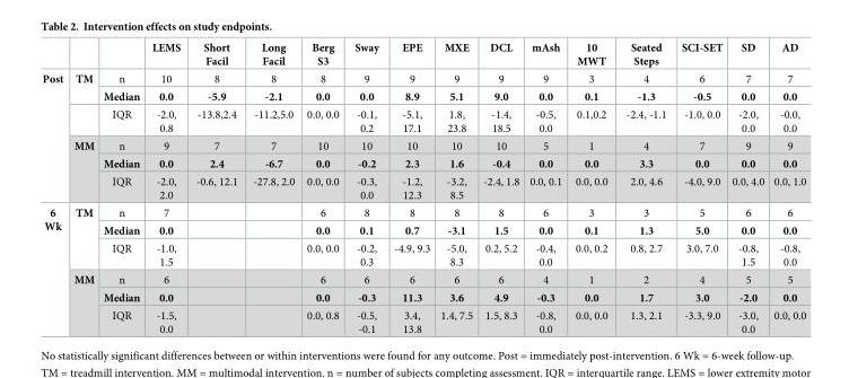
<table><thead><tr><td></td><td></td><td></td><td>LEMS</td><td>Short Facil</td><td>Long Facil</td><td>Berg S3</td><td>Sway</td><td>EPE</td><td>MXE</td><td>DCL</td><td>mAsh</td><td>10 MWT</td><td>Seated Steps</td><td>SCI-SET</td><td>SD</td><td>AD</td></tr></thead><tbody><tr><td rowspan="6">Post</td><td rowspan="2">TM</td><td>n</td><td>10</td><td>8</td><td>8</td><td>8</td><td>9</td><td>9</td><td>9</td><td>9</td><td>9</td><td>3</td><td>4</td><td>6</td><td>7</td><td>7</td></tr><tr><td>Median</td><td>0.0</td><td>-5.9</td><td>-2.1</td><td>0.0</td><td>0.0</td><td>8.9</td><td>5.1</td><td>9.0</td><td>0.0</td><td>0.1</td><td>-1.3</td><td>-0.5</td><td>0.0</td><td>0.0</td></tr><tr><td></td><td>IQR</td><td>-2.0, 0.8</td><td>-13.8,2.4</td><td>-11.2,5.0</td><td>0.0, 0.0</td><td>-0.1, 0.2</td><td>-5.1, 17.1</td><td>1.8, 23.8</td><td>-1.4, 18.5</td><td>-0.5, 0.0</td><td>0.1,0.2</td><td>-2.4, -1.1</td><td>-1.0, 0.0</td><td>-2.0, 0.0</td><td>-0.0, 0.0</td></tr><tr><td rowspan="3">MM</td><td>n</td><td>9</td><td>7</td><td>7</td><td>10</td><td>10</td><td>10</td><td>10</td><td>10</td><td>5</td><td>1</td><td>4</td><td>7</td><td>9</td><td>9</td></tr><tr><td>Median</td><td>0.0</td><td>2.4</td><td>-6.7</td><td>0.0</td><td>-0.2</td><td>2.3</td><td>1.6</td><td>-0.4</td><td>0.0</td><td>0.0</td><td>3.3</td><td>0.0</td><td>0.0</td><td>0.0</td></tr><tr><td>IQR</td><td>-2.0, 2.0</td><td>-0.6, 12.1</td><td>-27.8, 2.0</td><td>0.0, 0.0</td><td>-0.3, 0.0</td><td>-1.2, 12.3</td><td>-3.2, 8.5</td><td>-2.4, 1.8</td><td>0.0, 0.1</td><td>0.0, 0.0</td><td>2.0, 4.6</td><td>-4.0, 9.0</td><td>0.0, 4.0</td><td>0.0, 1.0</td></tr><tr><td rowspan="6">6 Wk</td><td rowspan="3">TM</td><td>n</td><td>7</td><td></td><td></td><td>6</td><td>8</td><td>8</td><td>8</td><td>8</td><td>6</td><td>3</td><td>3</td><td>5</td><td>6</td><td>6</td></tr><tr><td>Median</td><td>0.0</td><td></td><td></td><td>0.0</td><td>0.1</td><td>0.7</td><td>-3.1</td><td>1.5</td><td>0.0</td><td>0.1</td><td>1.3</td><td>5.0</td><td>0.0</td><td>0.0</td></tr><tr><td>IQR</td><td>-1.0, 1.5</td><td></td><td></td><td>0.0, 0.0</td><td>-0.2, 0.3</td><td>-4.9, 9.3</td><td>-5.0, 8.3</td><td>0.2, 5.2</td><td>-0.4, 0.0</td><td>0.0, 0.2</td><td>0.8, 2.7</td><td>3.0, 7.0</td><td>-0.8, 1.5</td><td>-0.8, 0.0</td></tr><tr><td rowspan="3">MM</td><td>n</td><td>6</td><td></td><td></td><td>6</td><td>6</td><td>6</td><td>6</td><td>6</td><td>4</td><td>1</td><td>2</td><td>4</td><td>5</td><td>5</td></tr><tr><td>Median</td><td>0.0</td><td></td><td></td><td>0.0</td><td>-0.3</td><td>11.3</td><td>3.6</td><td>4.9</td><td>-0.3</td><td>0.0</td><td>1.7</td><td>3.0</td><td>-2.0</td><td>0.0</td></tr><tr><td>IQR</td><td>-1.5, 0.0</td><td></td><td></td><td>0.0, 0.8</td><td>-0.5, -0.1</td><td>3.4, 13.8</td><td>1.4, 7.5</td><td>1.5, 8.3</td><td>-0.8, 0.0</td><td>0.0, 0.0</td><td>1.3, 2.1</td><td>-3.3, 9.0</td><td>-3.0, 0.0</td><td>0.0, 0.0</td></tr></tbody></table>